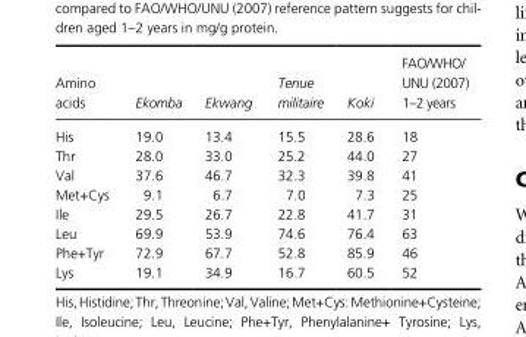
<table><thead><tr><td>Amino acids</td><td>Ekomba</td><td>Ekwang</td><td>Tenue militaire</td><td>Koki</td><td>FAO/WHO/ UNU (2007) 1–2 years</td></tr></thead><tbody><tr><td>His</td><td>19.0</td><td>13.4</td><td>15.5</td><td>28.6</td><td>18</td></tr><tr><td>Thr</td><td>28.0</td><td>33.0</td><td>25.2</td><td>44.0</td><td>27</td></tr><tr><td>Val</td><td>37.6</td><td>46.7</td><td>32.3</td><td>39.8</td><td>41</td></tr><tr><td>Met+Cys</td><td>9.1</td><td>6.7</td><td>7.0</td><td>7.3</td><td>25</td></tr><tr><td>Ile</td><td>29.5</td><td>26.7</td><td>22.8</td><td>41.7</td><td>31</td></tr><tr><td>Leu</td><td>69.9</td><td>53.9</td><td>74.6</td><td>76.4</td><td>63</td></tr><tr><td>Phe+Tyr</td><td>72.9</td><td>67.7</td><td>52.8</td><td>85.9</td><td>46</td></tr><tr><td>Lys</td><td>19.1</td><td>34.9</td><td>16.7</td><td>60.5</td><td>52</td></tr></tbody></table>